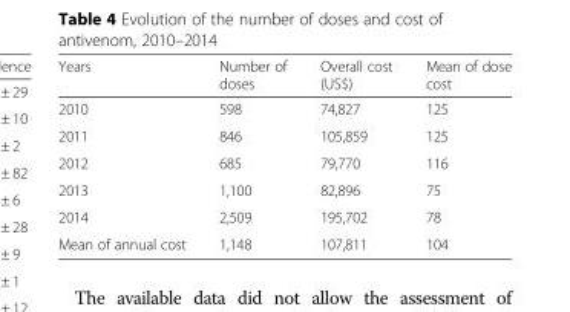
<table><thead><tr><td>Years</td><td>Number of doses</td><td>Overall cost (US$)</td><td>Mean of dose cost</td></tr></thead><tbody><tr><td>2010</td><td>598</td><td>74,827</td><td>125</td></tr><tr><td>2011</td><td>846</td><td>105,859</td><td>125</td></tr><tr><td>2012</td><td>685</td><td>79,770</td><td>116</td></tr><tr><td>2013</td><td>1,100</td><td>82,896</td><td>75</td></tr><tr><td>2014</td><td>2,509</td><td>195,702</td><td>78</td></tr><tr><td>Mean of annual cost</td><td>1,148</td><td>107,811</td><td>104</td></tr></tbody></table>